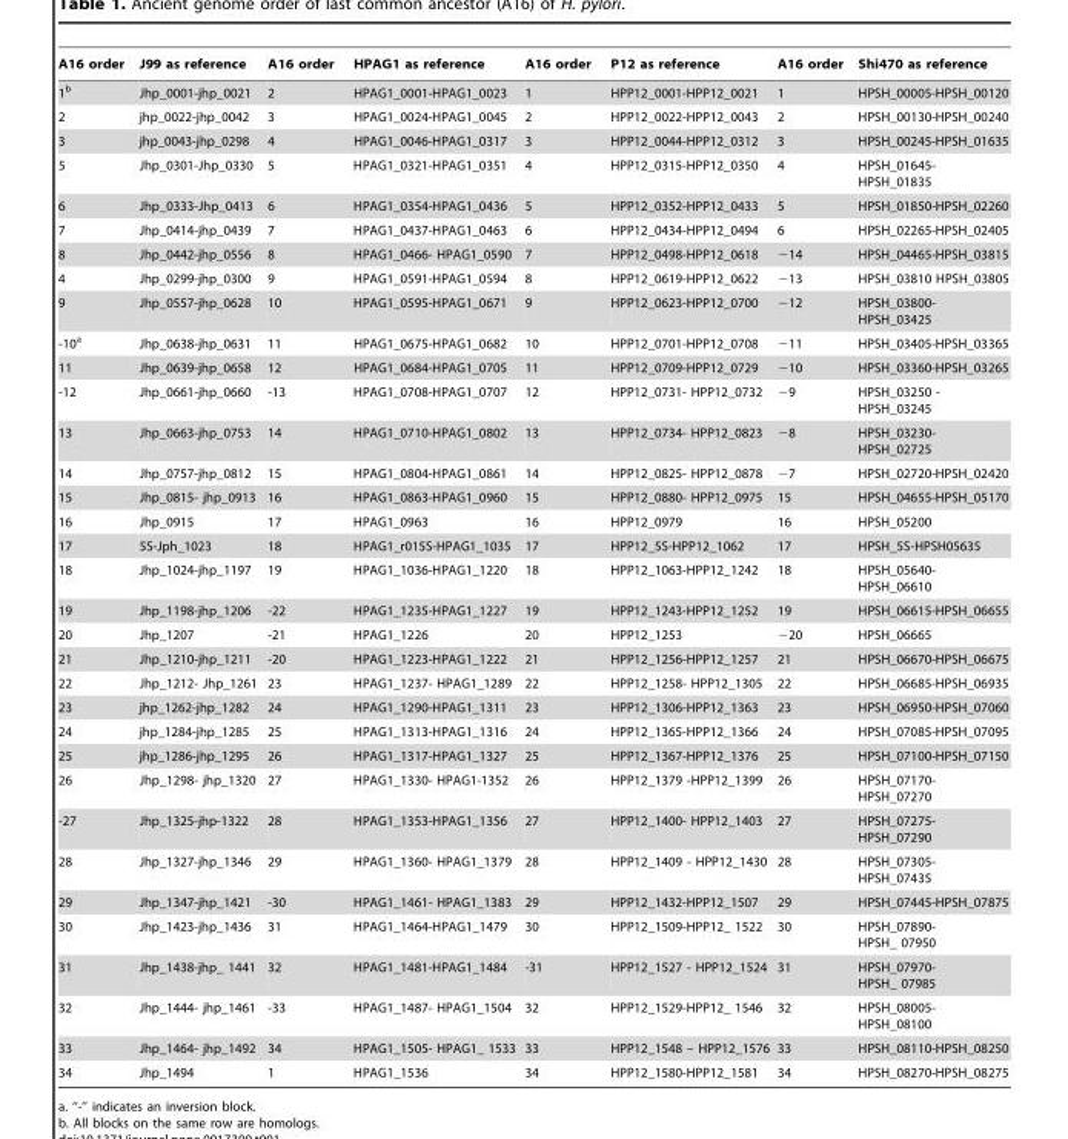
<table><thead><tr><td>A16 order</td><td>J99 as reference</td><td>A16 order</td><td>HPAG1 as reference</td><td>A16 order</td><td>P12 as reference</td><td>A16 order</td><td>Shi470 as reference</td></tr></thead><tbody><tr><td>1<sup>b</sup></td><td>Jhp_0001-jhp_0021</td><td>2</td><td>HPAG1_0001-HPAG1_0023</td><td>1</td><td>HPP12_0001-HPP12_0021</td><td>1</td><td>HPSH_00005-HPSH_00120</td></tr><tr><td>2</td><td>jhp_0022-jhp_0042</td><td>3</td><td>HPAG1_0024-HPAG1_0045</td><td>2</td><td>HPP12_0022-HPP12_0043</td><td>2</td><td>HPSH_00130-HPSH_00240</td></tr><tr><td>3</td><td>jhp_0043-jhp_0298</td><td>4</td><td>HPAG1_0046-HPAG1_0317</td><td>3</td><td>HPP12_0044-HPP12_0312</td><td>3</td><td>HPSH_00245-HPSH_01635</td></tr><tr><td>5</td><td>Jhp_0301-Jhp_0330</td><td>5</td><td>HPAG1_0321-HPAG1_0351</td><td>4</td><td>HPP12_0315-HPP12_0350</td><td>4</td><td>HPSH_01645- HPSH_01835</td></tr><tr><td>6</td><td>Jhp_0333-Jhp_0413</td><td>6</td><td>HPAG1_0354-HPAG1_0436</td><td>5</td><td>HPP12_0352-HPP12_0433</td><td>5</td><td>HPSH_01850-HPSH_02260</td></tr><tr><td>7</td><td>Jhp_0414-jhp_0439</td><td>7</td><td>HPAG1_0437-HPAG1_0463</td><td>6</td><td>HPP12_0434-HPP12_0494</td><td>6</td><td>HPSH_02265-HPSH_02405</td></tr><tr><td>8</td><td>Jhp_0442-jhp_0556</td><td>8</td><td>HPAG1_0466- HPAG1_0590</td><td>7</td><td>HPP12_0498-HPP12_0618</td><td>−14</td><td>HPSH_04465-HPSH_03815</td></tr><tr><td>4</td><td>Jhp_0299-jhp_0300</td><td>9</td><td>HPAG1_0591-HPAG1_0594</td><td>8</td><td>HPP12_0619-HPP12_0622</td><td>−13</td><td>HPSH_03810 HPSH_03805</td></tr><tr><td>9</td><td>Jhp_0557-jhp_0628</td><td>10</td><td>HPAG1_0595-HPAG1_0671</td><td>9</td><td>HPP12_0623-HPP12_0700</td><td>−12</td><td>HPSH_03800- HPSH_03425</td></tr><tr><td>-10<sup>a</sup></td><td>Jhp_0638-jhp_0631</td><td>11</td><td>HPAG1_0675-HPAG1_0682</td><td>10</td><td>HPP12_0701-HPP12_0708</td><td>−11</td><td>HPSH_03405-HPSH_03365</td></tr><tr><td>11</td><td>Jhp_0639-jhp_0658</td><td>12</td><td>HPAG1_0684-HPAG1_0705</td><td>11</td><td>HPP12_0709-HPP12_0729</td><td>−10</td><td>HPSH_03360-HPSH_03265</td></tr><tr><td>-12</td><td>Jhp_0661-jhp_0660</td><td>-13</td><td>HPAG1_0708-HPAG1_0707</td><td>12</td><td>HPP12_0731- HPP12_0732</td><td>−9</td><td>HPSH_03250 - HPSH_03245</td></tr><tr><td>13</td><td>Jhp_0663-jhp_0753</td><td>14</td><td>HPAG1_0710-HPAG1_0802</td><td>13</td><td>HPP12_0734- HPP12_0823</td><td>−8</td><td>HPSH_03230- HPSH_02725</td></tr><tr><td>14</td><td>Jhp_0757-jhp_0812</td><td>15</td><td>HPAG1_0804-HPAG1_0861</td><td>14</td><td>HPP12_0825- HPP12_0878</td><td>−7</td><td>HPSH_02720-HPSH_02420</td></tr><tr><td>15</td><td>Jhp_0815- jhp_0913</td><td>16</td><td>HPAG1_0863-HPAG1_0960</td><td>15</td><td>HPP12_0880- HPP12_0975</td><td>15</td><td>HPSH_04655-HPSH_05170</td></tr><tr><td>16</td><td>Jhp_0915</td><td>17</td><td>HPAG1_0963</td><td>16</td><td>HPP12_0979</td><td>16</td><td>HPSH_05200</td></tr><tr><td>17</td><td>5S-Jph_1023</td><td>18</td><td>HPAG1_r015S-HPAG1_1035</td><td>17</td><td>HPP12_5S-HPP12_1062</td><td>17</td><td>HPSH_5S-HPSH05635</td></tr><tr><td>18</td><td>Jhp_1024-jhp_1197</td><td>19</td><td>HPAG1_1036-HPAG1_1220</td><td>18</td><td>HPP12_1063-HPP12_1242</td><td>18</td><td>HPSH_05640- HPSH_06610</td></tr><tr><td>19</td><td>Jhp_1198-jhp_1206</td><td>-22</td><td>HPAG1_1235-HPAG1_1227</td><td>19</td><td>HPP12_1243-HPP12_1252</td><td>19</td><td>HPSH_06615-HPSH_06655</td></tr><tr><td>20</td><td>Jhp_1207</td><td>-21</td><td>HPAG1_1226</td><td>20</td><td>HPP12_1253</td><td>−20</td><td>HPSH_06665</td></tr><tr><td>21</td><td>Jhp_1210-jhp_1211</td><td>-20</td><td>HPAG1_1223-HPAG1_1222</td><td>21</td><td>HPP12_1256-HPP12_1257</td><td>21</td><td>HPSH_06670-HPSH_06675</td></tr><tr><td>22</td><td>Jhp_1212- Jhp_1261</td><td>23</td><td>HPAG1_1237- HPAG1_1289</td><td>22</td><td>HPP12_1258- HPP12_1305</td><td>22</td><td>HPSH_06685-HPSH_06935</td></tr><tr><td>23</td><td>jhp_1262-jhp_1282</td><td>24</td><td>HPAG1_1290-HPAG1_1311</td><td>23</td><td>HPP12_1306-HPP12_1363</td><td>23</td><td>HPSH_06950-HPSH_07060</td></tr><tr><td>24</td><td>jhp_1284-jhp_1285</td><td>25</td><td>HPAG1_1313-HPAG1_1316</td><td>24</td><td>HPP12_1365-HPP12_1366</td><td>24</td><td>HPSH_07085-HPSH_07095</td></tr><tr><td>25</td><td>jhp_1286-jhp_1295</td><td>26</td><td>HPAG1_1317-HPAG1_1327</td><td>25</td><td>HPP12_1367-HPP12_1376</td><td>25</td><td>HPSH_07100-HPSH_07150</td></tr><tr><td>26</td><td>Jhp_1298- jhp_1320</td><td>27</td><td>HPAG1_1330- HPAG1-1352</td><td>26</td><td>HPP12_1379 -HPP12_1399</td><td>26</td><td>HPSH_07170- HPSH_07270</td></tr><tr><td>-27</td><td>Jhp_1325-jhp-1322</td><td>28</td><td>HPAG1_1353-HPAG1_1356</td><td>27</td><td>HPP12_1400- HPP12_1403</td><td>27</td><td>HPSH_07275- HPSH_07290</td></tr><tr><td>28</td><td>Jhp_1327-jhp_1346</td><td>29</td><td>HPAG1_1360- HPAG1_1379</td><td>28</td><td>HPP12_1409 - HPP12_1430</td><td>28</td><td>HPSH_07305- HPSH_07435</td></tr><tr><td>29</td><td>Jhp_1347-jhp_1421</td><td>-30</td><td>HPAG1_1461- HPAG1_1383</td><td>29</td><td>HPP12_1432-HPP12_1507</td><td>29</td><td>HPSH_07445-HPSH_07875</td></tr><tr><td>30</td><td>Jhp_1423-jhp_1436</td><td>31</td><td>HPAG1_1464-HPAG1_1479</td><td>30</td><td>HPP12_1509-HPP12_ 1522</td><td>30</td><td>HPSH_07890- HPSH_ 07950</td></tr><tr><td>31</td><td>Jhp_1438-jhp_ 1441</td><td>32</td><td>HPAG1_1481-HPAG1_1484</td><td>-31</td><td>HPP12_1527 - HPP12_1524</td><td>31</td><td>HPSH_07970- HPSH_ 07985</td></tr><tr><td>32</td><td>Jhp_1444- jhp_1461</td><td>-33</td><td>HPAG1_1487- HPAG1_1504</td><td>32</td><td>HPP12_1529-HPP12_ 1546</td><td>32</td><td>HPSH_08005- HPSH_08100</td></tr><tr><td>33</td><td>Jhp_1464- jhp_1492</td><td>34</td><td>HPAG1_1505- HPAG1_ 1533</td><td>33</td><td>HPP12_1548 – HPP12_1576</td><td>33</td><td>HPSH_08110-HPSH_08250</td></tr><tr><td>34</td><td>Jhp_1494</td><td>1</td><td>HPAG1_1536</td><td>34</td><td>HPP12_1580-HPP12_1581</td><td>34</td><td>HPSH_08270-HPSH_08275</td></tr></tbody></table>